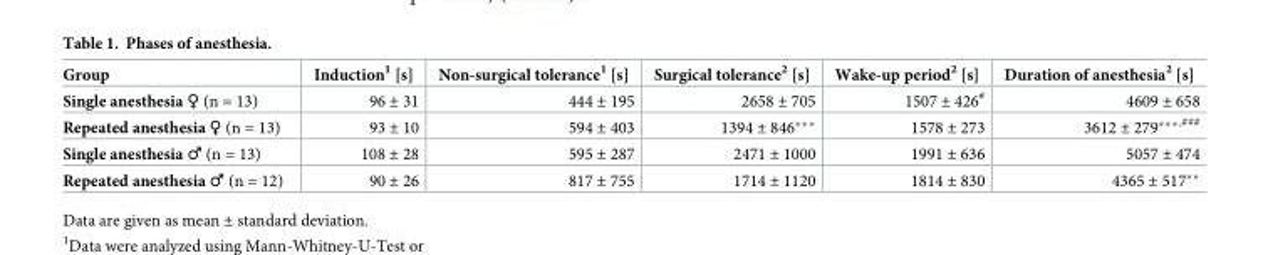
<table><thead><tr><td>Group</td><td>Induction<sup>1</sup> [s]</td><td>Non-surgical tolerance<sup>1</sup> [s]</td><td>Surgical tolerance<sup>2</sup> [s]</td><td>Wake-up period<sup>2</sup> [s]</td><td>Duration of anesthesia<sup>2</sup> [s]</td></tr></thead><tbody><tr><td>Single anesthesia ♀ (n = 13)</td><td>96 ± 31</td><td>444 ± 195</td><td>2658 ± 705</td><td>1507 ± 426<sup>#</sup></td><td>4609 ± 658</td></tr><tr><td>Repeated anesthesia ♀ (n = 13)</td><td>93 ± 10</td><td>594 ± 403</td><td>1394 ± 846***</td><td>1578 ± 273</td><td>3612 ± 279***<sup>,###</sup></td></tr><tr><td>Single anesthesia ♂ (n = 13)</td><td>108 ± 28</td><td>595 ± 287</td><td>2471 ± 1000</td><td>1991 ± 636</td><td>5057 ± 474</td></tr><tr><td>Repeated anesthesia ♂ (n = 12)</td><td>90 ± 26</td><td>817 ± 755</td><td>1714 ± 1120</td><td>1814 ± 830</td><td>4365 ± 517**</td></tr></tbody></table>